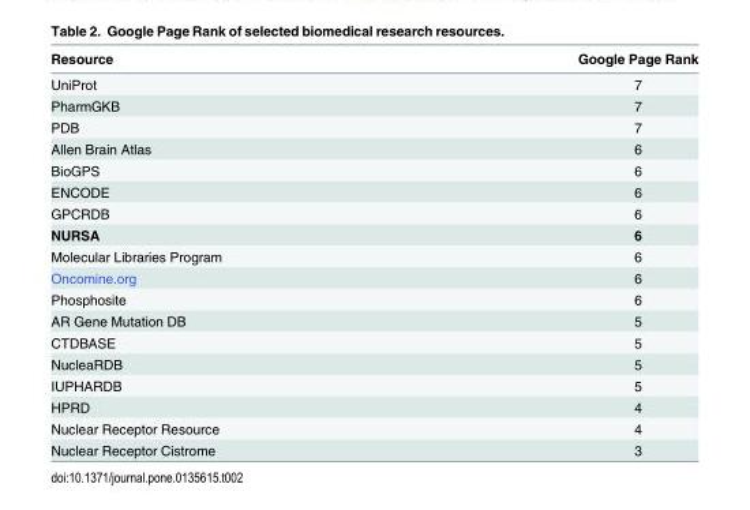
<table><thead><tr><td>Resource</td><td>Google Page Rank</td></tr></thead><tbody><tr><td>UniProt</td><td>7</td></tr><tr><td>PharmGKB</td><td>7</td></tr><tr><td>PDB</td><td>7</td></tr><tr><td>Allen Brain Atlas</td><td>6</td></tr><tr><td>BioGPS</td><td>6</td></tr><tr><td>ENCODE</td><td>6</td></tr><tr><td>GPCRDB</td><td>6</td></tr><tr><td>NURSA</td><td>6</td></tr><tr><td>Molecular Libraries Program</td><td>6</td></tr><tr><td>Oncomine.org</td><td>6</td></tr><tr><td>Phosphosite</td><td>6</td></tr><tr><td>AR Gene Mutation DB</td><td>5</td></tr><tr><td>CTDBASE</td><td>5</td></tr><tr><td>NucleaRDB</td><td>5</td></tr><tr><td>IUPHARDB</td><td>5</td></tr><tr><td>HPRD</td><td>4</td></tr><tr><td>Nuclear Receptor Resource</td><td>4</td></tr><tr><td>Nuclear Receptor Cistrome</td><td>3</td></tr></tbody></table>